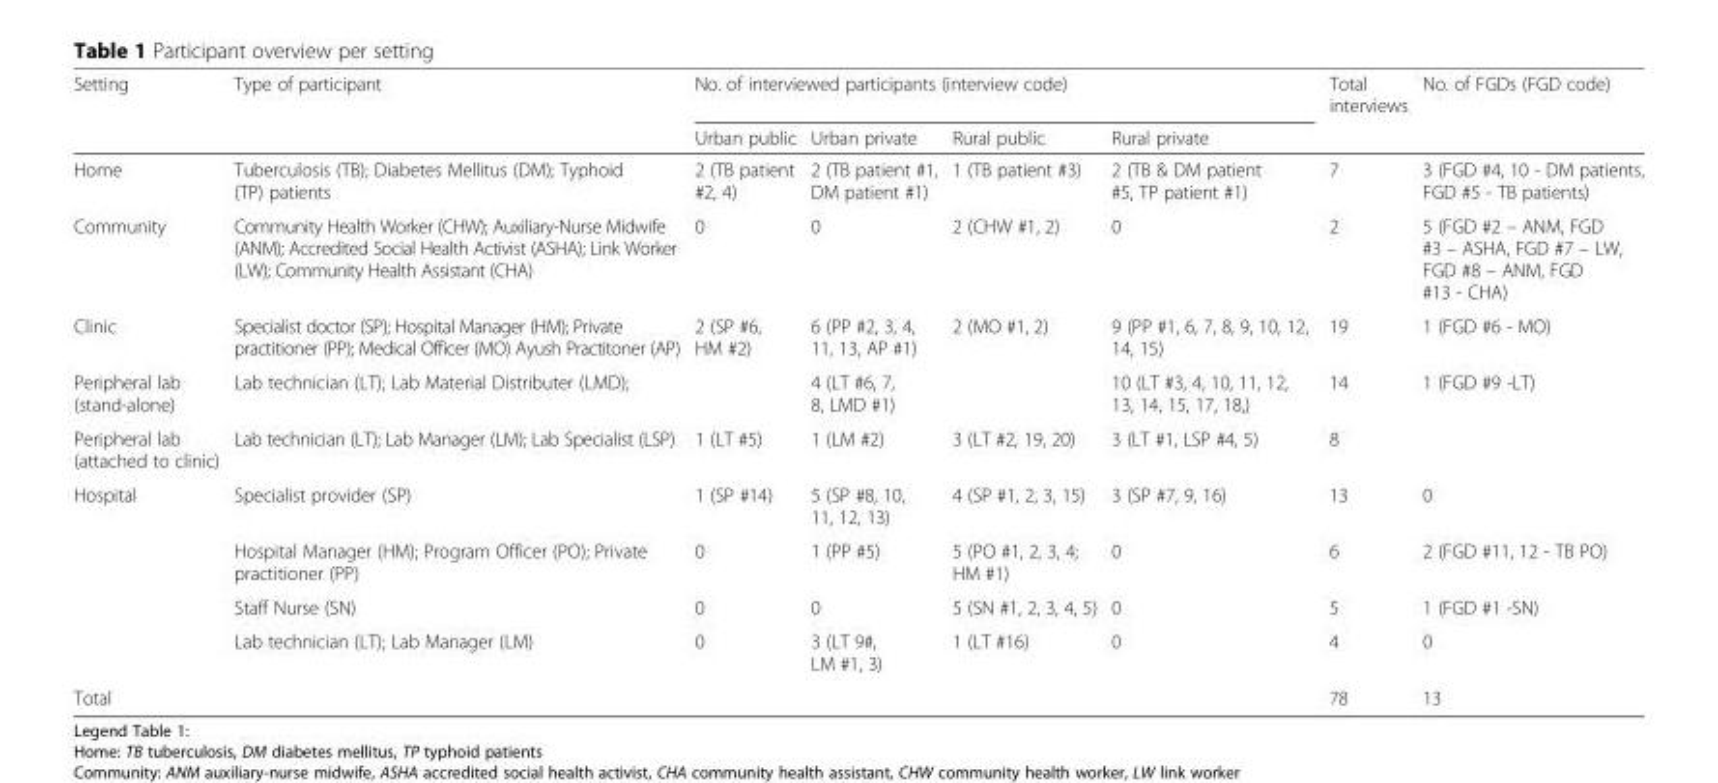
<table><thead><tr><td rowspan="2">Setting</td><td rowspan="2">Type of participant</td><td colspan="4">No. of interviewed participants (interview code)</td><td rowspan="2">Total interviews</td><td rowspan="2">No. of FGDs (FGD code)</td></tr><tr><td>Urban public</td><td>Urban private</td><td>Rural public</td><td>Rural private</td></tr></thead><tbody><tr><td>Home</td><td>Tuberculosis (TB); Diabetes Mellitus (DM); Typhoid (TP) patients</td><td>2 (TB patient #2, 4)</td><td>2 (TB patient #1, DM patient #1)</td><td>1 (TB patient #3)</td><td>2 (TB &amp; DM patient #5, TP patient #1)</td><td>7</td><td>3 (FGD #4, 10 - DM patients, FGD #5 - TB patients)</td></tr><tr><td>Community</td><td>Community Health Worker (CHW); Auxiliary-Nurse Midwife (ANM); Accredited Social Health Activist (ASHA); Link Worker (LW); Community Health Assistant (CHA)</td><td>0</td><td>0</td><td>2 (CHW #1, 2)</td><td>0</td><td>2</td><td>5 (FGD #2 – ANM, FGD #3 – ASHA, FGD #7 – LW, FGD #8 – ANM, FGD #13 - CHA)</td></tr><tr><td>Clinic</td><td>Specialist doctor (SP); Hospital Manager (HM); Private practitioner (PP); Medical Officer (MO) Ayush Practitoner (AP)</td><td>2 (SP #6, HM #2)</td><td>6 (PP #2, 3, 4, 11, 13, AP #1)</td><td>2 (MO #1, 2)</td><td>9 (PP #1, 6, 7, 8, 9, 10, 12, 14, 15)</td><td>19</td><td>1 (FGD #6 - MO)</td></tr><tr><td>Peripheral lab (stand-alone)</td><td>Lab technician (LT); Lab Material Distributer (LMD);</td><td></td><td>4 (LT #6, 7, 8, LMD #1)</td><td></td><td>10 (LT #3, 4, 10, 11, 12, 13, 14, 15, 17, 18,)</td><td>14</td><td>1 (FGD #9 -LT)</td></tr><tr><td>Peripheral lab (attached to clinic)</td><td>Lab technician (LT); Lab Manager (LM); Lab Specialist (LSP)</td><td>1 (LT #5)</td><td>1 (LM #2)</td><td>3 (LT #2, 19, 20)</td><td>3 (LT #1, LSP #4, 5)</td><td>8</td><td></td></tr><tr><td rowspan="4">Hospital</td><td>Specialist provider (SP)</td><td>1 (SP #14)</td><td>5 (SP #8, 10, 11, 12, 13)</td><td>4 (SP #1, 2, 3, 15)</td><td>3 (SP #7, 9, 16)</td><td>13</td><td>0</td></tr><tr><td>Hospital Manager (HM); Program Officer (PO); Private practitioner (PP)</td><td>0</td><td>1 (PP #5)</td><td>5 (PO #1, 2, 3, 4; HM #1)</td><td>0</td><td>6</td><td>2 (FGD #11, 12 - TB PO)</td></tr><tr><td>Staff Nurse (SN)</td><td>0</td><td>0</td><td>5 (SN #1, 2, 3, 4, 5)</td><td>0</td><td>5</td><td>1 (FGD #1 -SN)</td></tr><tr><td>Lab technician (LT); Lab Manager (LM)</td><td>0</td><td>3 (LT 9#, LM #1, 3)</td><td>1 (LT #16)</td><td>0</td><td>4</td><td>0</td></tr><tr><td>Total</td><td></td><td></td><td></td><td></td><td></td><td>78</td><td>13</td></tr></tbody></table>